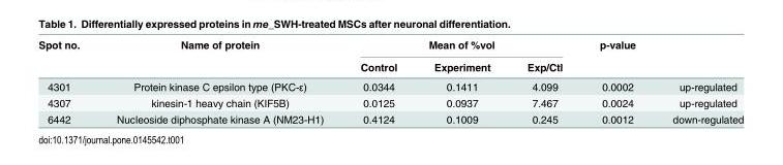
<table><thead><tr><td rowspan="2">Spot no.</td><td rowspan="2">Name of protein</td><td colspan="3">Mean of %vol</td><td rowspan="2">p-value</td><td rowspan="2"></td></tr><tr><td>Control</td><td>Experiment</td><td>Exp/Ctl</td></tr></thead><tbody><tr><td>4301</td><td>Protein kinase C epsilon type (PKC-ε)</td><td>0.0344</td><td>0.1411</td><td>4.099</td><td>0.0002</td><td>up-regulated</td></tr><tr><td>4307</td><td>kinesin-1 heavy chain (KIF5B)</td><td>0.0125</td><td>0.0937</td><td>7.467</td><td>0.0024</td><td>up-regulated</td></tr><tr><td>6442</td><td>Nucleoside diphosphate kinase A (NM23-H1)</td><td>0.4124</td><td>0.1009</td><td>0.245</td><td>0.0012</td><td>down-regulated</td></tr></tbody></table>